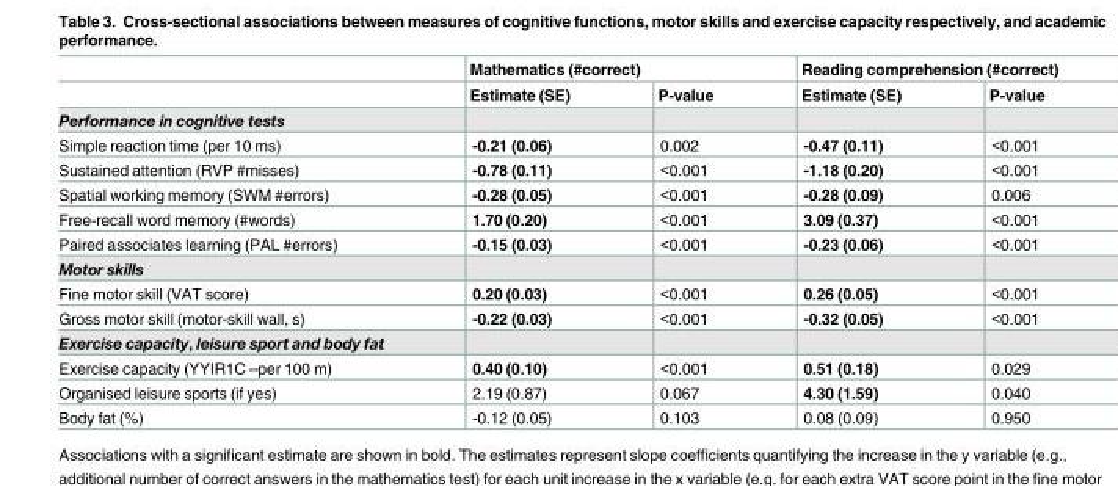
<table><thead><tr><td rowspan="2"></td><td colspan="2">Mathematics (#correct)</td><td colspan="2">Reading comprehension (#correct)</td></tr><tr><td>Estimate (SE)</td><td>P-value</td><td>Estimate (SE)</td><td>P-value</td></tr></thead><tbody><tr><td colspan="5">Performance in cognitive tests</td></tr><tr><td>Simple reaction time (per 10 ms)</td><td>-0.21 (0.06)</td><td>0.002</td><td>-0.47 (0.11)</td><td>&lt;0.001</td></tr><tr><td>Sustained attention (RVP #misses)</td><td>-0.78 (0.11)</td><td>&lt;0.001</td><td>-1.18 (0.20)</td><td>&lt;0.001</td></tr><tr><td>Spatial working memory (SWM #errors)</td><td>-0.28 (0.05)</td><td>&lt;0.001</td><td>-0.28 (0.09)</td><td>0.006</td></tr><tr><td>Free-recall word memory (#words)</td><td>1.70 (0.20)</td><td>&lt;0.001</td><td>3.09 (0.37)</td><td>&lt;0.001</td></tr><tr><td>Paired associates learning (PAL #errors)</td><td>-0.15 (0.03)</td><td>&lt;0.001</td><td>-0.23 (0.06)</td><td>&lt;0.001</td></tr><tr><td colspan="5">Motor skills</td></tr><tr><td>Fine motor skill (VAT score)</td><td>0.20 (0.03)</td><td>&lt;0.001</td><td>0.26 (0.05)</td><td>&lt;0.001</td></tr><tr><td>Gross motor skill (motor-skill wall, s)</td><td>-0.22 (0.03)</td><td>&lt;0.001</td><td>-0.32 (0.05)</td><td>&lt;0.001</td></tr><tr><td colspan="5">Exercise capacity, leisure sport and body fat</td></tr><tr><td>Exercise capacity (YYIR1C –per 100 m)</td><td>0.40 (0.10)</td><td>&lt;0.001</td><td>0.51 (0.18)</td><td>0.029</td></tr><tr><td>Organised leisure sports (if yes)</td><td>2.19 (0.87)</td><td>0.067</td><td>4.30 (1.59)</td><td>0.040</td></tr><tr><td>Body fat (%)</td><td>-0.12 (0.05)</td><td>0.103</td><td>0.08 (0.09)</td><td>0.950</td></tr></tbody></table>